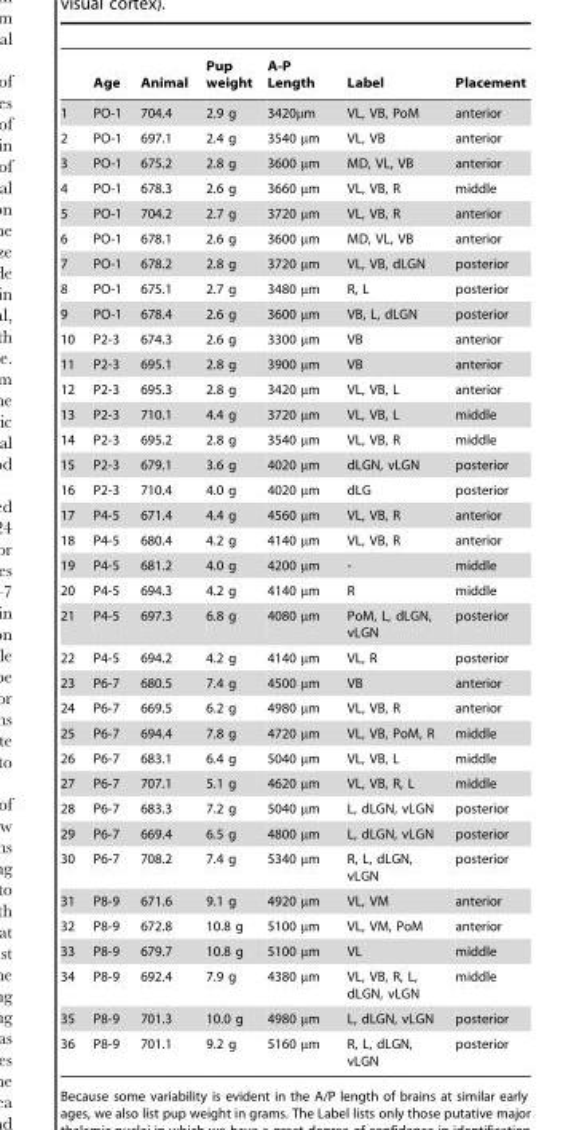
<table><thead><tr><td></td><td>Age</td><td>Animal</td><td>Pup weight</td><td>A-P Length</td><td>Label</td><td>Placement</td></tr></thead><tbody><tr><td>1</td><td>PO-1</td><td>704.4</td><td>2.9 g</td><td>3420μm</td><td>VL, VB, PoM</td><td>anterior</td></tr><tr><td>2</td><td>PO-1</td><td>697.1</td><td>2.4 g</td><td>3540 µm</td><td>VL, VB</td><td>anterior</td></tr><tr><td>3</td><td>PO-1</td><td>675.2</td><td>2.8 g</td><td>3600 µm</td><td>MD, VL, VB</td><td>anterior</td></tr><tr><td>4</td><td>PO-1</td><td>678.3</td><td>2.6 g</td><td>3660 µm</td><td>VL, VB, R</td><td>middle</td></tr><tr><td>5</td><td>PO-1</td><td>704.2</td><td>2.7 g</td><td>3720 µm</td><td>VL, VB, R</td><td>anterior</td></tr><tr><td>6</td><td>PO-1</td><td>678.1</td><td>2.6 g</td><td>3600 µm</td><td>MD, VL, VB</td><td>anterior</td></tr><tr><td>7</td><td>PO-1</td><td>678.2</td><td>2.8 g</td><td>3720 µm</td><td>VL, VB, dLGN</td><td>posterior</td></tr><tr><td>8</td><td>PO-1</td><td>675.1</td><td>2.7 g</td><td>3480 µm</td><td>R, L</td><td>posterior</td></tr><tr><td>9</td><td>PO-1</td><td>678.4</td><td>2.6 g</td><td>3600 µm</td><td>VB, L, dLGN</td><td>posterior</td></tr><tr><td>10</td><td>P2-3</td><td>674.3</td><td>2.6 g</td><td>3300 µm</td><td>VB</td><td>anterior</td></tr><tr><td>11</td><td>P2-3</td><td>695.1</td><td>2.8 g</td><td>3900 µm</td><td>VB</td><td>anterior</td></tr><tr><td>12</td><td>P2-3</td><td>695.3</td><td>2.8 g</td><td>3420 µm</td><td>VL, VB, L</td><td>anterior</td></tr><tr><td>13</td><td>P2-3</td><td>710.1</td><td>4.4 g</td><td>3720 µm</td><td>VL, VB, L</td><td>middle</td></tr><tr><td>14</td><td>P2-3</td><td>695.2</td><td>2.8 g</td><td>3540 µm</td><td>VL, VB, R</td><td>middle</td></tr><tr><td>15</td><td>P2-3</td><td>679.1</td><td>3.6 g</td><td>4020 µm</td><td>dLGN, vLGN</td><td>posterior</td></tr><tr><td>16</td><td>P2-3</td><td>710.4</td><td>4.0 g</td><td>4020 µm</td><td>dLG</td><td>posterior</td></tr><tr><td>17</td><td>P4-5</td><td>671.4</td><td>4.4 g</td><td>4560 µm</td><td>VL, VB, R</td><td>anterior</td></tr><tr><td>18</td><td>P4-5</td><td>680.4</td><td>4.2 g</td><td>4140 µm</td><td>VL, VB, R</td><td>anterior</td></tr><tr><td>19</td><td>P4-5</td><td>681.2</td><td>4.0 g</td><td>4200 µm</td><td>-</td><td>middle</td></tr><tr><td>20</td><td>P4-5</td><td>694.3</td><td>4.2 g</td><td>4140 µm</td><td>R</td><td>middle</td></tr><tr><td>21</td><td>P4-5</td><td>697.3</td><td>6.8 g</td><td>4080 µm</td><td>PoM, L, dLGN, vLGN</td><td>posterior</td></tr><tr><td>22</td><td>P4-5</td><td>694.2</td><td>4.2 g</td><td>4140 µm</td><td>VL, R</td><td>posterior</td></tr><tr><td>23</td><td>P6-7</td><td>680.5</td><td>7.4 g</td><td>4500 µm</td><td>VB</td><td>anterior</td></tr><tr><td>24</td><td>P6-7</td><td>669.5</td><td>6.2 g</td><td>4980 µm</td><td>VL, VB, R</td><td>anterior</td></tr><tr><td>25</td><td>P6-7</td><td>694.4</td><td>7.8 g</td><td>4720 µm</td><td>VL, VB, PoM, R</td><td>middle</td></tr><tr><td>26</td><td>P6-7</td><td>683.1</td><td>6.4 g</td><td>5040 µm</td><td>VL, VB, L</td><td>middle</td></tr><tr><td>27</td><td>P6-7</td><td>707.1</td><td>5.1 g</td><td>4620 µm</td><td>VL, VB, R, L</td><td>middle</td></tr><tr><td>28</td><td>P6-7</td><td>683.3</td><td>7.2 g</td><td>5040 µm</td><td>L, dLGN, vLGN</td><td>posterior</td></tr><tr><td>29</td><td>P6-7</td><td>669.4</td><td>6.5 g</td><td>4800 µm</td><td>L, dLGN, vLGN</td><td>posterior</td></tr><tr><td>30</td><td>P6-7</td><td>708.2</td><td>7.4 g</td><td>5340 µm</td><td>R, L, dLGN, vLGN</td><td>posterior</td></tr><tr><td>31</td><td>P8-9</td><td>671.6</td><td>9.1 g</td><td>4920 µm</td><td>VL, VM</td><td>anterior</td></tr><tr><td>32</td><td>P8-9</td><td>672.8</td><td>10.8 g</td><td>5100 µm</td><td>VL, VM, PoM</td><td>anterior</td></tr><tr><td>33</td><td>P8-9</td><td>679.7</td><td>10.8 g</td><td>5100 µm</td><td>VL</td><td>middle</td></tr><tr><td>34</td><td>P8-9</td><td>692.4</td><td>7.9 g</td><td>4380 µm</td><td>VL, VB, R, L, dLGN, vLGN</td><td>middle</td></tr><tr><td>35</td><td>P8-9</td><td>701.3</td><td>10.0 g</td><td>4980 µm</td><td>L, dLGN, vLGN</td><td>posterior</td></tr><tr><td>36</td><td>P8-9</td><td>701.1</td><td>9.2 g</td><td>5160 µm</td><td>R, L, dLGN, vLGN</td><td>posterior</td></tr></tbody></table>